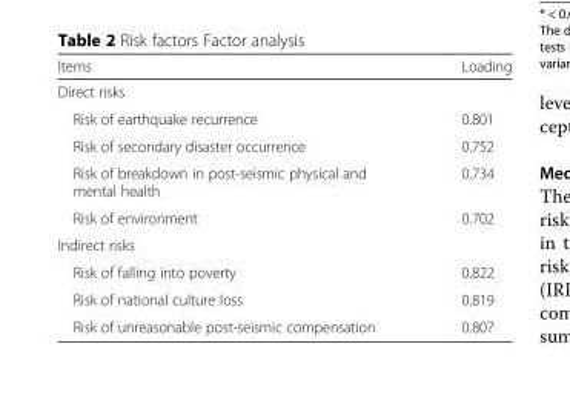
<table><thead><tr><td>Items</td><td>Loading</td></tr></thead><tbody><tr><td colspan="2">Direct risks</td></tr><tr><td>Risk of earthquake recurrence</td><td>0.801</td></tr><tr><td>Risk of secondary disaster occurrence</td><td>0.752</td></tr><tr><td>Risk of breakdown in post-seismic physical and mental health</td><td>0.734</td></tr><tr><td>Risk of environment</td><td>0.702</td></tr><tr><td colspan="2">Indirect risks</td></tr><tr><td>Risk of falling into poverty</td><td>0.822</td></tr><tr><td>Risk of national culture loss</td><td>0.819</td></tr><tr><td>Risk of unreasonable post-seismic compensation</td><td>0.807</td></tr></tbody></table>